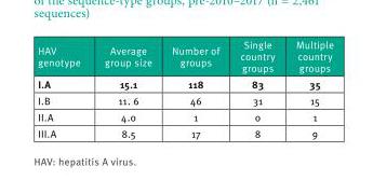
<table><thead><tr><td>HAV genotype</td><td>Average group size</td><td>Number of groups</td><td>Single country groups</td><td>Multiple country groups</td></tr></thead><tbody><tr><td>I.A</td><td>15.1</td><td>118</td><td>83</td><td>35</td></tr><tr><td>I.B</td><td>11. 6</td><td>46</td><td>31</td><td>15</td></tr><tr><td>II.A</td><td>4.0</td><td>1</td><td>0</td><td>1</td></tr><tr><td>III.A</td><td>8.5</td><td>17</td><td>8</td><td>9</td></tr></tbody></table>